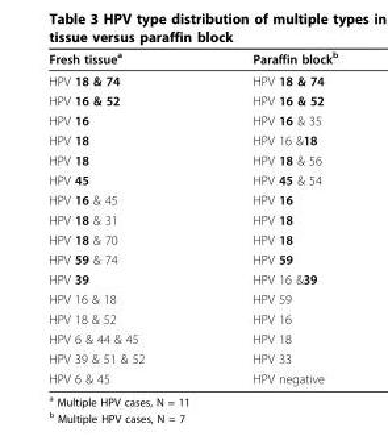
<table><thead><tr><td>Fresh tissue<sup>a</sup></td><td>Paraffin block<sup>b</sup></td></tr></thead><tbody><tr><td>HPV 18 &amp; 74</td><td>HPV 18 &amp; 74</td></tr><tr><td>HPV 16 &amp; 52</td><td>HPV 16 &amp; 52</td></tr><tr><td>HPV 16</td><td>HPV 16 &amp; 35</td></tr><tr><td>HPV 18</td><td>HPV 16 &amp;18</td></tr><tr><td>HPV 18</td><td>HPV 18 &amp; 56</td></tr><tr><td>HPV 45</td><td>HPV 45 &amp; 54</td></tr><tr><td>HPV 16 &amp; 45</td><td>HPV 16</td></tr><tr><td>HPV 18 &amp; 31</td><td>HPV 18</td></tr><tr><td>HPV 18 &amp; 70</td><td>HPV 18</td></tr><tr><td>HPV 59 &amp; 74</td><td>HPV 59</td></tr><tr><td>HPV 39</td><td>HPV 16 &amp;39</td></tr><tr><td>HPV 16 &amp; 18</td><td>HPV 59</td></tr><tr><td>HPV 18 &amp; 52</td><td>HPV 16</td></tr><tr><td>HPV 6 &amp; 44 &amp; 45</td><td>HPV 18</td></tr><tr><td>HPV 39 &amp; 51 &amp; 52</td><td>HPV 33</td></tr><tr><td>HPV 6 &amp; 45</td><td>HPV negative</td></tr></tbody></table>